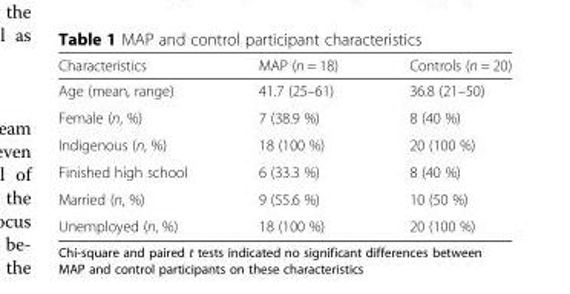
<table><thead><tr><td>Characteristics</td><td>MAP (n = 18)</td><td>Controls (n = 20)</td></tr></thead><tbody><tr><td>Age (mean, range)</td><td>41.7 (25–61)</td><td>36.8 (21–50)</td></tr><tr><td>Female (n, %)</td><td>7 (38.9 %)</td><td>8 (40 %)</td></tr><tr><td>Indigenous (n, %)</td><td>18 (100 %)</td><td>20 (100 %)</td></tr><tr><td>Finished high school</td><td>6 (33.3 %)</td><td>8 (40 %)</td></tr><tr><td>Married (n, %)</td><td>9 (55.6 %)</td><td>10 (50 %)</td></tr><tr><td>Unemployed (n, %)</td><td>18 (100 %)</td><td>20 (100 %)</td></tr></tbody></table>